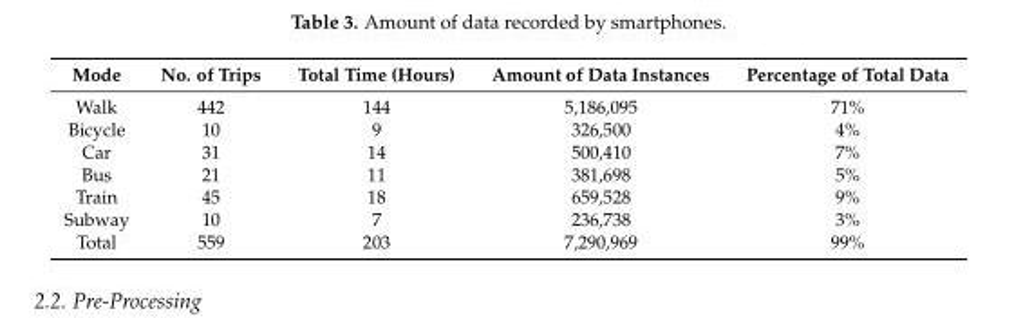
<table><thead><tr><td>Mode</td><td>No. of Trips</td><td>Total Time (Hours)</td><td>Amount of Data Instances</td><td>Percentage of Total Data</td></tr></thead><tbody><tr><td>Walk</td><td>442</td><td>144</td><td>5,186,095</td><td>71%</td></tr><tr><td>Bicycle</td><td>10</td><td>9</td><td>326,500</td><td>4%</td></tr><tr><td>Car</td><td>31</td><td>14</td><td>500,410</td><td>7%</td></tr><tr><td>Bus</td><td>21</td><td>11</td><td>381,698</td><td>5%</td></tr><tr><td>Train</td><td>45</td><td>18</td><td>659,528</td><td>9%</td></tr><tr><td>Subway</td><td>10</td><td>7</td><td>236,738</td><td>3%</td></tr><tr><td>Total</td><td>559</td><td>203</td><td>7,290,969</td><td>99%</td></tr></tbody></table>